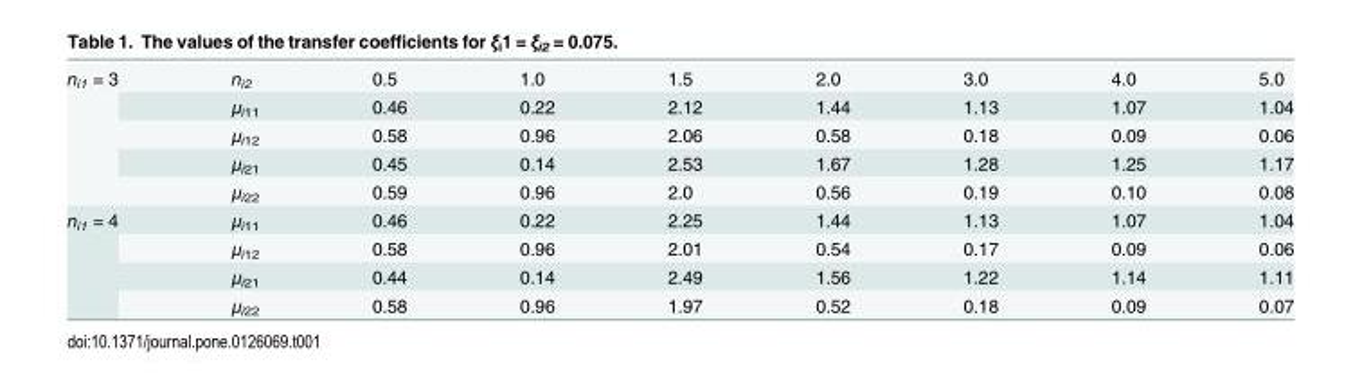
<table><tbody><tr><td rowspan="5">n<sub>i1</sub> = 3</td><td>n<sub>i2</sub></td><td>0.5</td><td>1.0</td><td>1.5</td><td>2.0</td><td>3.0</td><td>4.0</td><td>5.0</td></tr><tr><td>μ<sub>i11</sub></td><td>0.46</td><td>0.22</td><td>2.12</td><td>1.44</td><td>1.13</td><td>1.07</td><td>1.04</td></tr><tr><td>μ<sub>i12</sub></td><td>0.58</td><td>0.96</td><td>2.06</td><td>0.58</td><td>0.18</td><td>0.09</td><td>0.06</td></tr><tr><td>μ<sub>i21</sub></td><td>0.45</td><td>0.14</td><td>2.53</td><td>1.67</td><td>1.28</td><td>1.25</td><td>1.17</td></tr><tr><td>μ<sub>i22</sub></td><td>0.59</td><td>0.96</td><td>2.0</td><td>0.56</td><td>0.19</td><td>0.10</td><td>0.08</td></tr><tr><td rowspan="4">n<sub>i1</sub> = 4</td><td>μ<sub>i11</sub></td><td>0.46</td><td>0.22</td><td>2.25</td><td>1.44</td><td>1.13</td><td>1.07</td><td>1.04</td></tr><tr><td>μ<sub>i12</sub></td><td>0.58</td><td>0.96</td><td>2.01</td><td>0.54</td><td>0.17</td><td>0.09</td><td>0.06</td></tr><tr><td>μ<sub>i21</sub></td><td>0.44</td><td>0.14</td><td>2.49</td><td>1.56</td><td>1.22</td><td>1.14</td><td>1.11</td></tr><tr><td>μ<sub>i22</sub></td><td>0.58</td><td>0.96</td><td>1.97</td><td>0.52</td><td>0.18</td><td>0.09</td><td>0.07</td></tr></tbody></table>